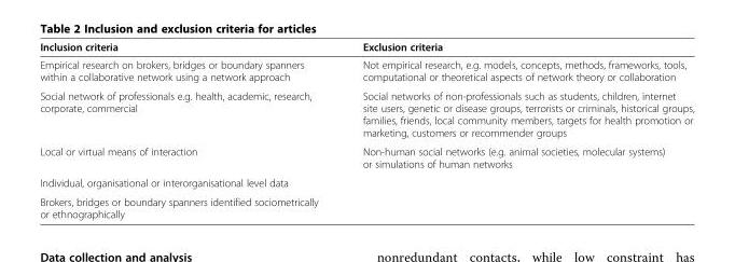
<table><thead><tr><td>Inclusion criteria</td><td>Exclusion criteria</td></tr></thead><tbody><tr><td>Empirical research on brokers, bridges or boundary spanners within a collaborative network using a network approach</td><td>Not empirical research, e.g. models, concepts, methods, frameworks, tools, computational or theoretical aspects of network theory or collaboration</td></tr><tr><td>Social network of professionals e.g. health, academic, research, corporate, commercial</td><td>Social networks of non-professionals such as students, children, internet site users, genetic or disease groups, terrorists or criminals, historical groups, families, friends, local community members, targets for health promotion or marketing, customers or recommender groups</td></tr><tr><td>Local or virtual means of interaction</td><td>Non-human social networks (e.g. animal societies, molecular systems) or simulations of human networks</td></tr><tr><td colspan="2">Individual, organisational or interorganisational level data</td></tr><tr><td>Brokers, bridges or boundary spanners identified sociometrically or ethnographically</td><td></td></tr></tbody></table>